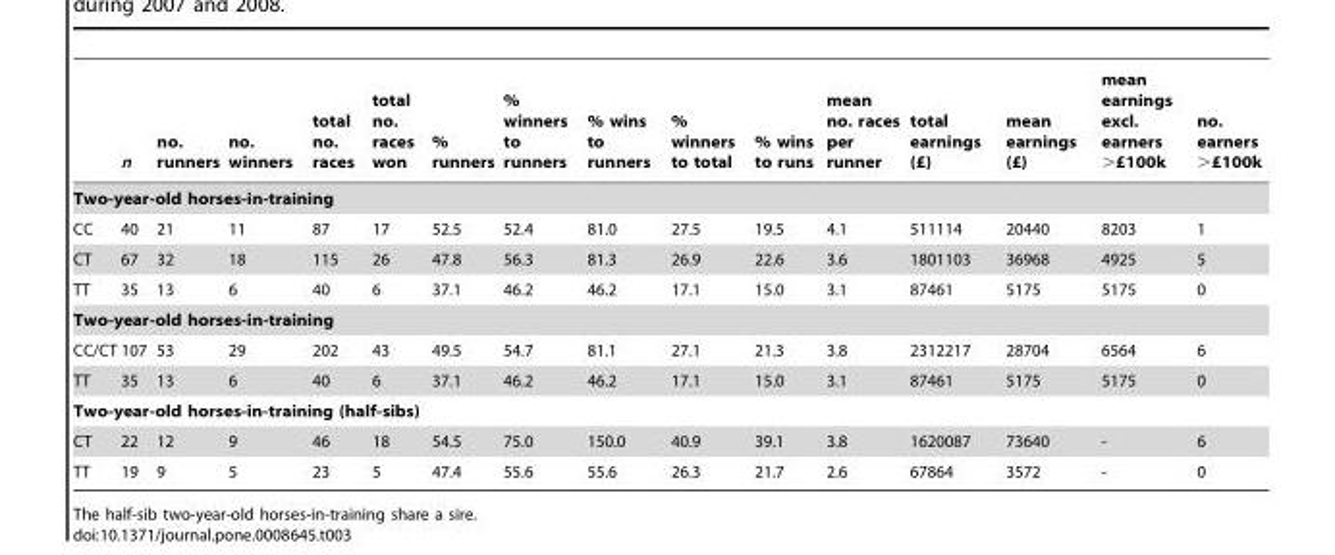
<table><thead><tr><td></td><td>n</td><td>no. runners</td><td>no. winners</td><td>total no. races</td><td>total no. races won</td><td>% runners</td><td>% winners to runners</td><td>% wins to runners</td><td>% winners to total</td><td>% wins to runs</td><td>mean no. races per runner</td><td>total earnings (£)</td><td>mean earnings (£)</td><td>mean earnings excl. earners &gt;£100k</td><td>no. earners &gt;£100k</td></tr></thead><tbody><tr><td colspan="16">Two-year-old horses-in-training</td></tr><tr><td>CC</td><td>40</td><td>21</td><td>11</td><td>87</td><td>17</td><td>52.5</td><td>52.4</td><td>81.0</td><td>27.5</td><td>19.5</td><td>4.1</td><td>511114</td><td>20440</td><td>8203</td><td>1</td></tr><tr><td>CT</td><td>67</td><td>32</td><td>18</td><td>115</td><td>26</td><td>47.8</td><td>56.3</td><td>81.3</td><td>26.9</td><td>22.6</td><td>3.6</td><td>1801103</td><td>36968</td><td>4925</td><td>5</td></tr><tr><td>TT</td><td>35</td><td>13</td><td>6</td><td>40</td><td>6</td><td>37.1</td><td>46.2</td><td>46.2</td><td>17.1</td><td>15.0</td><td>3.1</td><td>87461</td><td>5175</td><td>5175</td><td>0</td></tr><tr><td colspan="16">Two-year-old horses-in-training</td></tr><tr><td>CC/CT</td><td>107</td><td>53</td><td>29</td><td>202</td><td>43</td><td>49.5</td><td>54.7</td><td>81.1</td><td>27.1</td><td>21.3</td><td>3.8</td><td>2312217</td><td>28704</td><td>6564</td><td>6</td></tr><tr><td>TT</td><td>35</td><td>13</td><td>6</td><td>40</td><td>6</td><td>37.1</td><td>46.2</td><td>46.2</td><td>17.1</td><td>15.0</td><td>3.1</td><td>87461</td><td>5175</td><td>5175</td><td>0</td></tr><tr><td colspan="16">Two-year-old horses-in-training (half-sibs)</td></tr><tr><td>CT</td><td>22</td><td>12</td><td>9</td><td>46</td><td>18</td><td>54.5</td><td>75.0</td><td>150.0</td><td>40.9</td><td>39.1</td><td>3.8</td><td>1620087</td><td>73640</td><td>-</td><td>6</td></tr><tr><td>TT</td><td>19</td><td>9</td><td>5</td><td>23</td><td>5</td><td>47.4</td><td>55.6</td><td>55.6</td><td>26.3</td><td>21.7</td><td>2.6</td><td>67864</td><td>3572</td><td>-</td><td>0</td></tr></tbody></table>